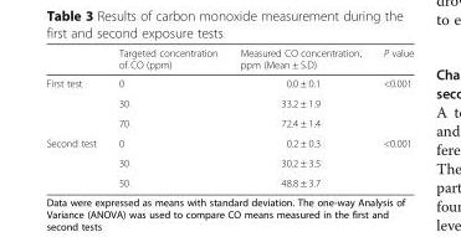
<table><thead><tr><td></td><td>Targeted concentration of CO (ppm)</td><td>Measured CO concentration, ppm (Mean ± S.D)</td><td>P value</td></tr></thead><tbody><tr><td rowspan="3">First test</td><td>0</td><td>0.0 ± 0.1</td><td rowspan="3">&lt;0.001</td></tr><tr><td>30</td><td>33.2 ± 1.9</td></tr><tr><td>70</td><td>72.4 ± 1.4</td></tr><tr><td rowspan="3">Second test</td><td>0</td><td>0.2 ± 0.3</td><td rowspan="3">&lt;0.001</td></tr><tr><td>30</td><td>30.2 ± 3.5</td></tr><tr><td>50</td><td>48.8 ± 3.7</td></tr></tbody></table>